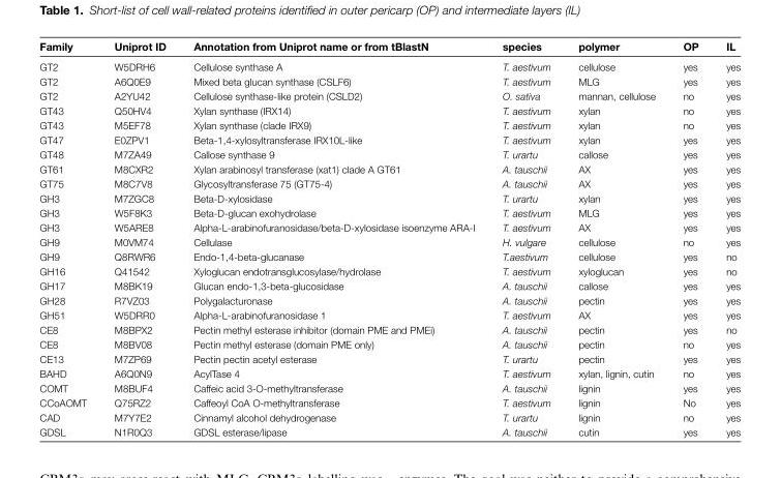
<table><thead><tr><td>Family</td><td>Uniprot ID</td><td>Annotation from Uniprot name or from tBlastN</td><td>species</td><td>polymer</td><td>OP</td><td>IL</td></tr></thead><tbody><tr><td>GT2</td><td>W5DRH6</td><td>Cellulose synthase A</td><td>T. aestivum</td><td>cellulose</td><td>yes</td><td>yes</td></tr><tr><td>GT2</td><td>A6Q0E9</td><td>Mixed beta glucan synthase (CSLF6)</td><td>T. aestivum</td><td>MLG</td><td>yes</td><td>yes</td></tr><tr><td>GT2</td><td>A2YU42</td><td>Cellulose synthase-like protein (CSLD2)</td><td>O. sativa</td><td>mannan, cellulose</td><td>no</td><td>yes</td></tr><tr><td>GT43</td><td>Q50HV4</td><td>Xylan synthase (IRX14)</td><td>T. aestivum</td><td>xylan</td><td>no</td><td>yes</td></tr><tr><td>GT43</td><td>M5EF78</td><td>Xylan synthase (clade IRX9)</td><td>T. aestivum</td><td>xylan</td><td>no</td><td>yes</td></tr><tr><td>GT47</td><td>E0ZPV1</td><td>Beta-1,4-xylosyltransferase IRX10L-like</td><td>T. aestivum</td><td>xylan</td><td>yes</td><td>yes</td></tr><tr><td>GT48</td><td>M7ZA49</td><td>Callose synthase 9</td><td>T. urartu</td><td>callose</td><td>yes</td><td>yes</td></tr><tr><td>GT61</td><td>M8CXR2</td><td>Xylan arabinosyl transferase (xat1) clade A GT61</td><td>A. tauschii</td><td>AX</td><td>yes</td><td>yes</td></tr><tr><td>GT75</td><td>M8C7V8</td><td>Glycosyltransferase 75 (GT75-4)</td><td>A. tauschii</td><td>AX</td><td>yes</td><td>yes</td></tr><tr><td>GH3</td><td>M7ZGC8</td><td>Beta-D-xylosidase</td><td>T. urartu</td><td>xylan</td><td>yes</td><td>yes</td></tr><tr><td>GH3</td><td>W5F8K3</td><td>Beta-D-glucan exohydrolase</td><td>T. aestivum</td><td>MLG</td><td>yes</td><td>yes</td></tr><tr><td>GH3</td><td>W5ARE8</td><td>Alpha-L-arabinofuranosidase/beta-D-xylosidase isoenzyme ARA-I</td><td>T. aestivum</td><td>AX</td><td>yes</td><td>yes</td></tr><tr><td>GH9</td><td>M0VM74</td><td>Cellulase</td><td>H. vulgare</td><td>cellulose</td><td>no</td><td>yes</td></tr><tr><td>GH9</td><td>Q8RWR6</td><td>Endo-1,4-beta-glucanase</td><td>T.aestivum</td><td>cellulose</td><td>yes</td><td>no</td></tr><tr><td>GH16</td><td>Q41542</td><td>Xyloglucan endotransglucosylase/hydrolase</td><td>T. aestivum</td><td>xyloglucan</td><td>yes</td><td>no</td></tr><tr><td>GH17</td><td>M8BK19</td><td>Glucan endo-1,3-beta-glucosidase</td><td>A. tauschii</td><td>callose</td><td>yes</td><td>yes</td></tr><tr><td>GH28</td><td>R7VZ03</td><td>Polygalacturonase</td><td>A. tauschii</td><td>pectin</td><td>yes</td><td>yes</td></tr><tr><td>GH51</td><td>W5DRR0</td><td>Alpha-L-arabinofuranosidase 1</td><td>T. aestivum</td><td>AX</td><td>yes</td><td>yes</td></tr><tr><td>CE8</td><td>M8BPX2</td><td>Pectin methyl esterase inhibitor (domain PME and PMEi)</td><td>A. tauschii</td><td>pectin</td><td>yes</td><td>no</td></tr><tr><td>CE8</td><td>M8BV08</td><td>Pectin methyl esterase (domain PME only)</td><td>A. tauschii</td><td>pectin</td><td>no</td><td>yes</td></tr><tr><td>CE13</td><td>M7ZP69</td><td>Pectin pectin acetyl esterase</td><td>T. urartu</td><td>pectin</td><td>yes</td><td>yes</td></tr><tr><td>BAHD</td><td>A6Q0N9</td><td>AcylTase 4</td><td>T. aestivum</td><td>xylan, lignin, cutin</td><td>no</td><td>yes</td></tr><tr><td>COMT</td><td>M8BUF4</td><td>Caffeic acid 3-O-methyltransferase</td><td>A. tauschii</td><td>lignin</td><td>yes</td><td>yes</td></tr><tr><td>CCoAOMT</td><td>Q75RZ2</td><td>Caffeoyl CoA O-methyltransferase</td><td>T. aestivum</td><td>lignin</td><td>No</td><td>yes</td></tr><tr><td>CAD</td><td>M7Y7E2</td><td>Cinnamyl alcohol dehydrogenase</td><td>T. urartu</td><td>lignin</td><td>no</td><td>yes</td></tr><tr><td>GDSL</td><td>N1R0Q3</td><td>GDSL esterase/lipase</td><td>A. tauschii</td><td>cutin</td><td>yes</td><td>yes</td></tr></tbody></table>